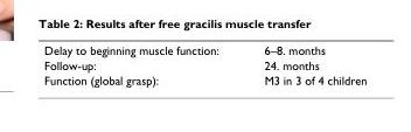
<table><tbody><tr><td>Delay to beginning muscle function:</td><td>6–8. months</td></tr><tr><td>Follow-up:</td><td>24. months</td></tr><tr><td>Function (global grasp):</td><td>M3 in 3 of 4 children</td></tr></tbody></table>